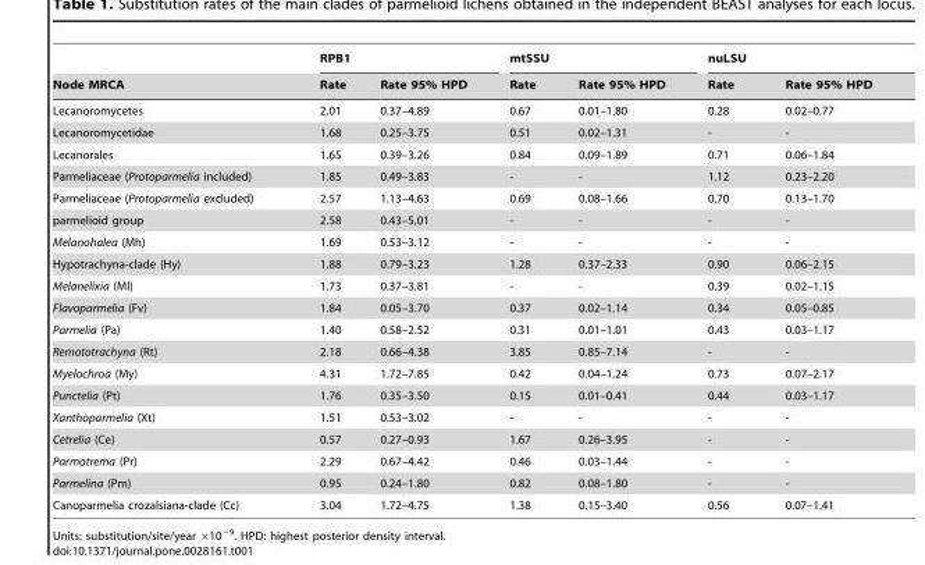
<table><thead><tr><td rowspan="2">Node MRCA</td><td colspan="2">RPB1</td><td colspan="2">mtSSU</td><td colspan="2">nuLSU</td></tr><tr><td>Rate</td><td>Rate 95% HPD</td><td>Rate</td><td>Rate 95% HPD</td><td>Rate</td><td>Rate 95% HPD</td></tr></thead><tbody><tr><td>Lecanoromycetes</td><td>2.01</td><td>0.37–4.89</td><td>0.67</td><td>0.01–1.80</td><td>0.28</td><td>0.02–0.77</td></tr><tr><td>Lecanoromycetidae</td><td>1.68</td><td>0.25–3.75</td><td>0.51</td><td>0.02–1.31</td><td>-</td><td>-</td></tr><tr><td>Lecanorales</td><td>1.65</td><td>0.39–3.26</td><td>0.84</td><td>0.09–1.89</td><td>0.71</td><td>0.06–1.84</td></tr><tr><td>Parmeliaceae (Protoparmelia included)</td><td>1.85</td><td>0.49–3.83</td><td>-</td><td>-</td><td>1.12</td><td>0.23–2.20</td></tr><tr><td>Parmeliaceae (Protoparmelia excluded)</td><td>2.57</td><td>1.13–4.63</td><td>0.69</td><td>0.08–1.66</td><td>0.70</td><td>0.13–1.70</td></tr><tr><td>parmelioid group</td><td>2.58</td><td>0.43–5.01</td><td>-</td><td>-</td><td>-</td><td>-</td></tr><tr><td>Melanohalea (Mh)</td><td>1.69</td><td>0.53–3.12</td><td>-</td><td>-</td><td>-</td><td>-</td></tr><tr><td>Hypotrachyna-clade (Hy)</td><td>1.88</td><td>0.79–3.23</td><td>1.28</td><td>0.37–2.33</td><td>0.90</td><td>0.06–2.15</td></tr><tr><td>Melanelixia (Ml)</td><td>1.73</td><td>0.37–3.81</td><td>-</td><td>-</td><td>0.39</td><td>0.02–1.15</td></tr><tr><td>Flavoparmelia (Fv)</td><td>1.84</td><td>0.05–3.70</td><td>0.37</td><td>0.02–1.14</td><td>0.34</td><td>0.05–0.85</td></tr><tr><td>Parmelia (Pa)</td><td>1.40</td><td>0.58–2.52</td><td>0.31</td><td>0.01–1.01</td><td>0.43</td><td>0.03–1.17</td></tr><tr><td>Remototrachyna (Rt)</td><td>2.18</td><td>0.66–4.38</td><td>3.85</td><td>0.85–7.14</td><td>-</td><td>-</td></tr><tr><td>Myelochroa (My)</td><td>4.31</td><td>1.72–7.85</td><td>0.42</td><td>0.04–1.24</td><td>0.73</td><td>0.07–2.17</td></tr><tr><td>Punctelia (Pt)</td><td>1.76</td><td>0.35–3.50</td><td>0.15</td><td>0.01–0.41</td><td>0.44</td><td>0.03–1.17</td></tr><tr><td>Xanthoparmelia (Xt)</td><td>1.51</td><td>0.53–3.02</td><td>-</td><td>-</td><td>-</td><td>-</td></tr><tr><td>Cetrelia (Ce)</td><td>0.57</td><td>0.27–0.93</td><td>1.67</td><td>0.26–3.95</td><td>-</td><td>-</td></tr><tr><td>Parmotrema (Pr)</td><td>2.29</td><td>0.67–4.42</td><td>0.46</td><td>0.03–1.44</td><td>-</td><td>-</td></tr><tr><td>Parmelina (Pm)</td><td>0.95</td><td>0.24–1.80</td><td>0.82</td><td>0.08–1.80</td><td>-</td><td>-</td></tr><tr><td>Canoparmelia crozalsiana-clade (Cc)</td><td>3.04</td><td>1.72–4.75</td><td>1.38</td><td>0.15–3.40</td><td>0.56</td><td>0.07–1.41</td></tr></tbody></table>